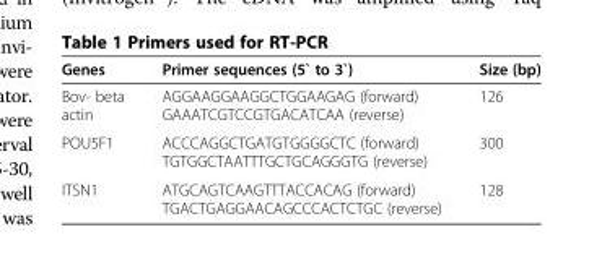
<table><thead><tr><td>Genes</td><td>Primer sequences (5` to 3`)</td><td>Size (bp)</td></tr></thead><tbody><tr><td>Bov- beta actin</td><td>AGGAAGGAAGGCTGGAAGAG (forward) GAAATCGTCCGTGACATCAA (reverse)</td><td>126</td></tr><tr><td>POU5F1</td><td>ACCCAGGCTGATGTGGGGCTC (forward) TGTGGCTAATTTGCTGCAGGGTG (reverse)</td><td>300</td></tr><tr><td>ITSN1</td><td>ATGCAGTCAAGTTTACCACAG (forward) TGACTGAGGAACAGCCCACTCTGC (reverse)</td><td>128</td></tr></tbody></table>